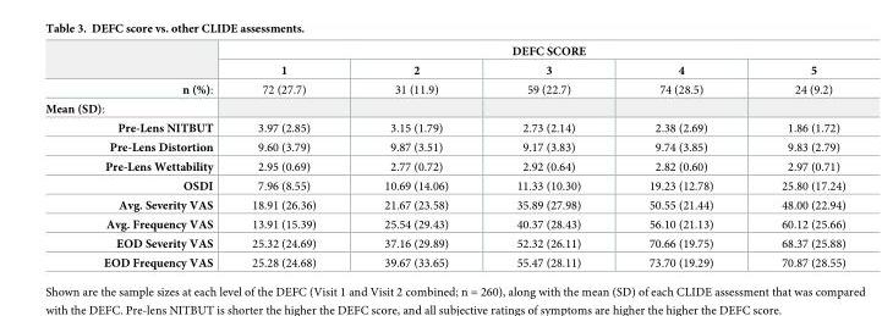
<table><thead><tr><td rowspan="2"></td><td colspan="5">DEFC SCORE</td></tr><tr><td>1</td><td>2</td><td>3</td><td>4</td><td>5</td></tr></thead><tbody><tr><td>n (%):</td><td>72 (27.7)</td><td>31 (11.9)</td><td>59 (22.7)</td><td>74 (28.5)</td><td>24 (9.2)</td></tr><tr><td colspan="6">Mean (SD):</td></tr><tr><td>Pre-Lens NITBUT</td><td>3.97 (2.85)</td><td>3.15 (1.79)</td><td>2.73 (2.14)</td><td>2.38 (2.69)</td><td>1.86 (1.72)</td></tr><tr><td>Pre-Lens Distortion</td><td>9.60 (3.79)</td><td>9.87 (3.51)</td><td>9.17 (3.83)</td><td>9.74 (3.85)</td><td>9.83 (2.79)</td></tr><tr><td>Pre-Lens Wettability</td><td>2.95 (0.69)</td><td>2.77 (0.72)</td><td>2.92 (0.64)</td><td>2.82 (0.60)</td><td>2.97 (0.71)</td></tr><tr><td>OSDI</td><td>7.96 (8.55)</td><td>10.69 (14.06)</td><td>11.33 (10.30)</td><td>19.23 (12.78)</td><td>25.80 (17.24)</td></tr><tr><td>Avg. Severity VAS</td><td>18.91 (26.36)</td><td>21.67 (23.58)</td><td>35.89 (27.98)</td><td>50.55 (21.44)</td><td>48.00 (22.94)</td></tr><tr><td>Avg. Frequency VAS</td><td>13.91 (15.39)</td><td>25.54 (29.43)</td><td>40.37 (28.43)</td><td>56.10 (21.13)</td><td>60.12 (25.66)</td></tr><tr><td>EOD Severity VAS</td><td>25.32 (24.69)</td><td>37.16 (29.89)</td><td>52.32 (26.11)</td><td>70.66 (19.75)</td><td>68.37 (25.88)</td></tr><tr><td>EOD Frequency VAS</td><td>25.28 (24.68)</td><td>39.67 (33.65)</td><td>55.47 (28.11)</td><td>73.70 (19.29)</td><td>70.87 (28.55)</td></tr></tbody></table>